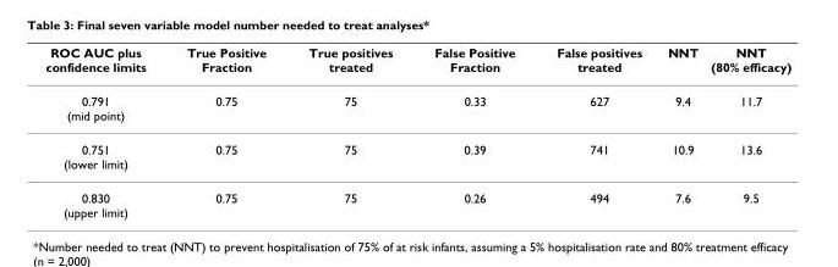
<table><thead><tr><td>ROC AUC plus confidence limits</td><td>True Positive Fraction</td><td>True positives treated</td><td>False Positive Fraction</td><td>False positives treated</td><td>NNT</td><td>NNT (80% efficacy)</td></tr></thead><tbody><tr><td>0.791 (mid point)</td><td>0.75</td><td>75</td><td>0.33</td><td>627</td><td>9.4</td><td>11.7</td></tr><tr><td>0.751 (lower limit)</td><td>0.75</td><td>75</td><td>0.39</td><td>741</td><td>10.9</td><td>13.6</td></tr><tr><td>0.830 (upper limit)</td><td>0.75</td><td>75</td><td>0.26</td><td>494</td><td>7.6</td><td>9.5</td></tr></tbody></table>